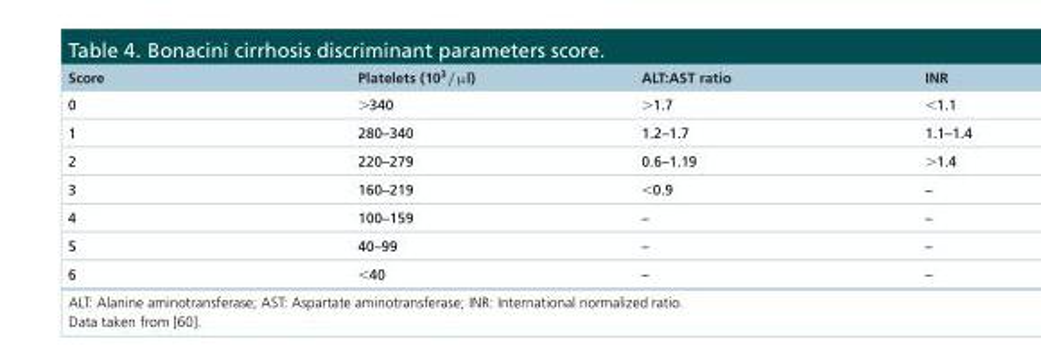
<table><thead><tr><td>Score</td><td>Platelets (10<sup>3</sup>/μl)</td><td>ALT:AST ratio</td><td>INR</td></tr></thead><tbody><tr><td>0</td><td>&gt;340</td><td>&gt;1.7</td><td>&lt;1.1</td></tr><tr><td>1</td><td>280–340</td><td>1.2–1.7</td><td>1.1–1.4</td></tr><tr><td>2</td><td>220–279</td><td>0.6–1.19</td><td>&gt;1.4</td></tr><tr><td>3</td><td>160–219</td><td>&lt;0.9</td><td>–</td></tr><tr><td>4</td><td>100–159</td><td>–</td><td>–</td></tr><tr><td>5</td><td>40–99</td><td>–</td><td>–</td></tr><tr><td>6</td><td>&lt;40</td><td>–</td><td>–</td></tr></tbody></table>